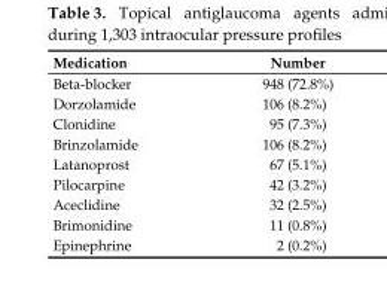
<table><thead><tr><td>Medication</td><td>Number</td></tr></thead><tbody><tr><td>Beta-blocker</td><td>948 (72.8%)</td></tr><tr><td>Dorzolamide</td><td>106 (8.2%)</td></tr><tr><td>Clonidine</td><td>95 (7.3%)</td></tr><tr><td>Brinzolamide</td><td>106 (8.2%)</td></tr><tr><td>Latanoprost</td><td>67 (5.1%)</td></tr><tr><td>Pilocarpine</td><td>42 (3.2%)</td></tr><tr><td>Aceclidine</td><td>32 (2.5%)</td></tr><tr><td>Brimonidine</td><td>11 (0.8%)</td></tr><tr><td>Epinephrine</td><td>2 (0.2%)</td></tr></tbody></table>